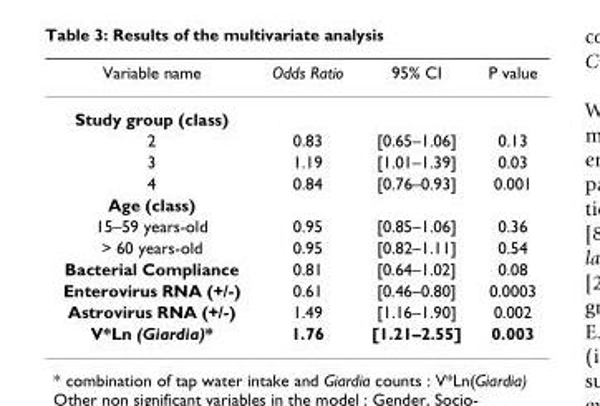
<table><thead><tr><td>Variable name</td><td>Odds Ratio</td><td>95% CI</td><td>P value</td></tr></thead><tbody><tr><td colspan="4">Study group (class)</td></tr><tr><td>2</td><td>0.83</td><td>[0.65–1.06]</td><td>0.13</td></tr><tr><td>3</td><td>1.19</td><td>[1.01–1.39]</td><td>0.03</td></tr><tr><td>4</td><td>0.84</td><td>[0.76–0.93]</td><td>0.001</td></tr><tr><td colspan="4">Age (class)</td></tr><tr><td>15–59 years-old</td><td>0.95</td><td>[0.85–1.06]</td><td>0.36</td></tr><tr><td>&gt; 60 years-old</td><td>0.95</td><td>[0.82–1.11]</td><td>0.54</td></tr><tr><td>Bacterial Compliance</td><td>0.81</td><td>[0.64–1.02]</td><td>0.08</td></tr><tr><td>Enterovirus RNA (+/-)</td><td>0.61</td><td>[0.46–0.80]</td><td>0.0003</td></tr><tr><td>Astrovirus RNA (+/-)</td><td>1.49</td><td>[1.16–1.90]</td><td>0.002</td></tr><tr><td>V*Ln (Giardia)*</td><td>1.76</td><td>[1.21–2.55]</td><td>0.003</td></tr></tbody></table>